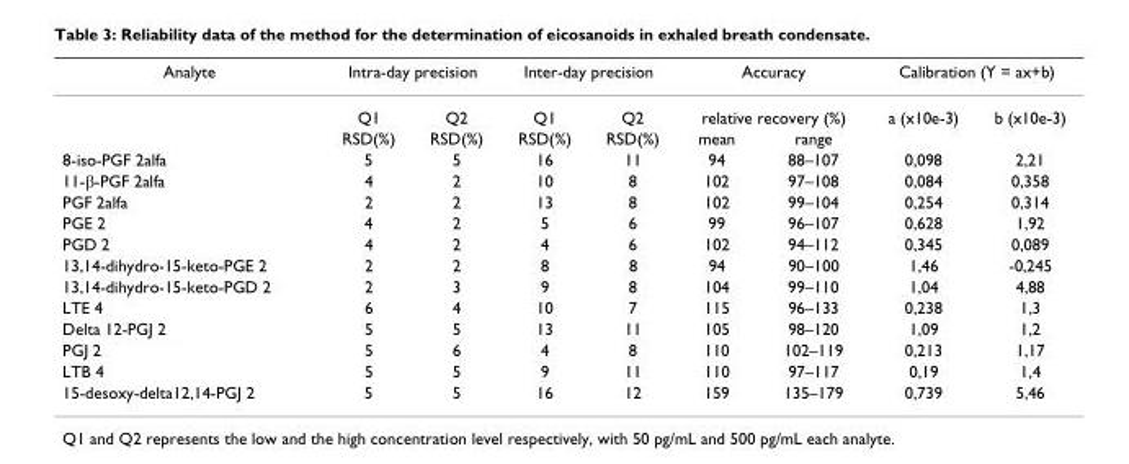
<table><thead><tr><td rowspan="3">Analyte</td><td colspan="2">Intra-day precision</td><td colspan="2">Inter-day precision</td><td rowspan="2" colspan="2">Accuracy relative recovery (%)</td><td colspan="2">Calibration (Y = ax+b)</td></tr><tr><td rowspan="2">Q1 RSD(%)</td><td rowspan="2">Q2 RSD(%)</td><td rowspan="2">Q1 RSD(%)</td><td rowspan="2">Q2 RSD(%)</td><td rowspan="2">a (x10e-3)</td><td rowspan="2">b (x10e-3)</td></tr><tr><td>mean</td><td>range</td></tr></thead><tbody><tr><td>8-iso-PGF 2alfa</td><td>5</td><td>5</td><td>16</td><td>11</td><td>94</td><td>88–107</td><td>0,098</td><td>2,21</td></tr><tr><td>11-β-PGF 2alfa</td><td>4</td><td>2</td><td>10</td><td>8</td><td>102</td><td>97–108</td><td>0,084</td><td>0,358</td></tr><tr><td>PGF 2alfa</td><td>2</td><td>2</td><td>13</td><td>8</td><td>102</td><td>99–104</td><td>0,254</td><td>0,314</td></tr><tr><td>PGE 2</td><td>4</td><td>2</td><td>5</td><td>6</td><td>99</td><td>96–107</td><td>0,628</td><td>1,92</td></tr><tr><td>PGD 2</td><td>4</td><td>2</td><td>4</td><td>6</td><td>102</td><td>94–112</td><td>0,345</td><td>0,089</td></tr><tr><td>13,14-dihydro-15-keto-PGE 2</td><td>2</td><td>2</td><td>8</td><td>8</td><td>94</td><td>90–100</td><td>1,46</td><td>-0,245</td></tr><tr><td>13,14-dihydro-15-keto-PGD 2</td><td>2</td><td>3</td><td>9</td><td>8</td><td>104</td><td>99–110</td><td>1,04</td><td>4,88</td></tr><tr><td>LTE 4</td><td>6</td><td>4</td><td>10</td><td>7</td><td>115</td><td>96–133</td><td>0,238</td><td>1,3</td></tr><tr><td>Delta 12-PGJ 2</td><td>5</td><td>5</td><td>13</td><td>11</td><td>105</td><td>98–120</td><td>1,09</td><td>1,2</td></tr><tr><td>PGJ 2</td><td>5</td><td>6</td><td>4</td><td>8</td><td>110</td><td>102–119</td><td>0,213</td><td>1,17</td></tr><tr><td>LTB 4</td><td>5</td><td>5</td><td>9</td><td>11</td><td>110</td><td>97–117</td><td>0,19</td><td>1,4</td></tr><tr><td>15-desoxy-delta12,14-PGJ 2</td><td>5</td><td>5</td><td>16</td><td>12</td><td>159</td><td>135–179</td><td>0,739</td><td>5,46</td></tr></tbody></table>